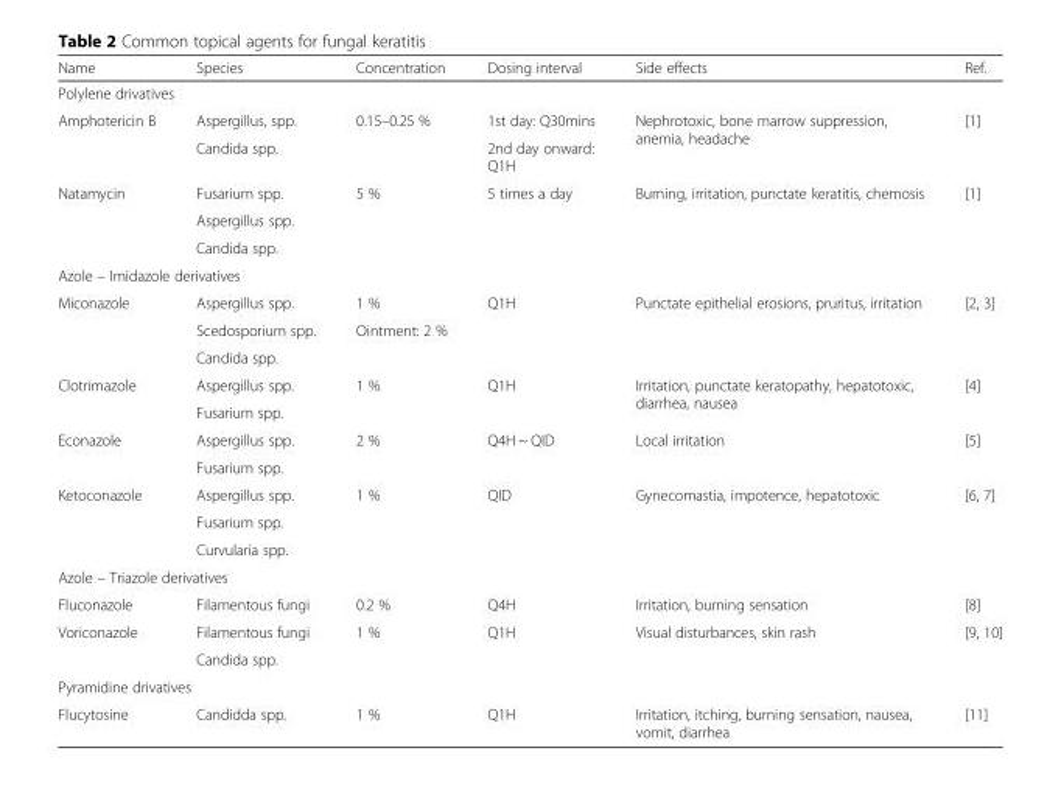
<table><thead><tr><td>Name</td><td>Species</td><td>Concentration</td><td>Dosing interval</td><td>Side effects</td><td>Ref.</td></tr></thead><tbody><tr><td colspan="6">Polylene drivatives</td></tr><tr><td rowspan="2">Amphotericin B</td><td>Aspergillus, spp.</td><td rowspan="2">0.15–0.25 %</td><td>1st day: Q30mins</td><td rowspan="2">Nephrotoxic, bone marrow suppression, anemia, headache</td><td rowspan="2">[1]</td></tr><tr><td>Candida spp.</td><td>2nd day onward: Q1H</td></tr><tr><td rowspan="3">Natamycin</td><td>Fusarium spp.</td><td>5 %</td><td>5 times a day</td><td rowspan="3">Burning, irritation, punctate keratitis, chemosis</td><td rowspan="3">[1]</td></tr><tr><td>Aspergillus spp.</td><td></td><td></td></tr><tr><td>Candida spp.</td><td></td><td></td></tr><tr><td colspan="6">Azole – Imidazole derivatives</td></tr><tr><td rowspan="3">Miconazole</td><td>Aspergillus spp.</td><td>1 %</td><td>Q1H</td><td rowspan="3">Punctate epithelial erosions, pruritus, irritation</td><td rowspan="3">[2, 3]</td></tr><tr><td>Scedosporium spp.</td><td>Ointment: 2 %</td><td></td></tr><tr><td>Candida spp.</td><td></td><td></td></tr><tr><td rowspan="2">Clotrimazole</td><td>Aspergillus spp.</td><td>1 %</td><td>Q1H</td><td rowspan="2">Irritation, punctate keratopathy, hepatotoxic, diarrhea, nausea</td><td rowspan="2">[4]</td></tr><tr><td>Fusarium spp.</td><td></td><td></td></tr><tr><td rowspan="2">Econazole</td><td>Aspergillus spp.</td><td>2 %</td><td>Q4H ~ QID</td><td rowspan="2">Local irritation</td><td rowspan="2">[5]</td></tr><tr><td>Fusarium spp.</td><td></td><td></td></tr><tr><td rowspan="3">Ketoconazole</td><td>Aspergillus spp.</td><td>1 %</td><td>QID</td><td rowspan="3">Gynecomastia, impotence, hepatotoxic</td><td rowspan="3">[6, 7]</td></tr><tr><td>Fusarium spp.</td><td></td><td></td></tr><tr><td>Curvularia spp.</td><td></td><td></td></tr><tr><td colspan="6">Azole – Triazole derivatives</td></tr><tr><td>Fluconazole</td><td>Filamentous fungi</td><td>0.2 %</td><td>Q4H</td><td>Irritation, burning sensation</td><td>[8]</td></tr><tr><td rowspan="2">Voriconazole</td><td>Filamentous fungi</td><td>1 %</td><td>Q1H</td><td rowspan="2">Visual disturbances, skin rash</td><td rowspan="2">[9, 10]</td></tr><tr><td>Candida spp.</td><td></td><td></td></tr><tr><td colspan="6">Pyramidine drivatives</td></tr><tr><td>Flucytosine</td><td>Candidda spp.</td><td>1 %</td><td>Q1H</td><td>Irritation, itching, burning sensation, nausea, vomit, diarrhea</td><td>[11]</td></tr></tbody></table>